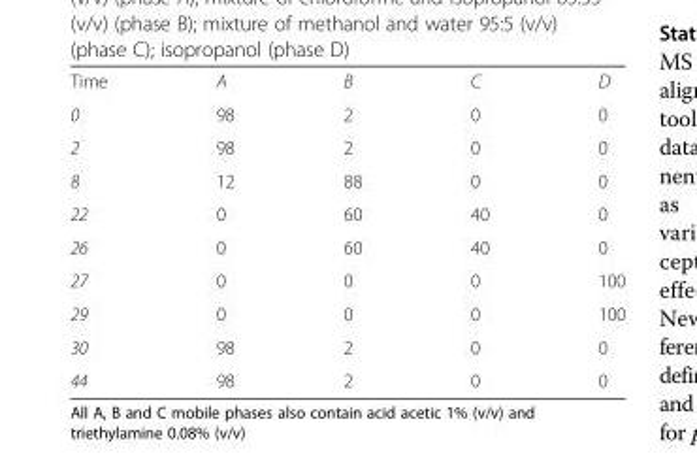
<table><tbody><tr><td>Time</td><td>A</td><td>B</td><td>C</td><td>D</td></tr><tr><td>0</td><td>98</td><td>2</td><td>0</td><td>0</td></tr><tr><td>2</td><td>98</td><td>2</td><td>0</td><td>0</td></tr><tr><td>8</td><td>12</td><td>88</td><td>0</td><td>0</td></tr><tr><td>22</td><td>0</td><td>60</td><td>40</td><td>0</td></tr><tr><td>26</td><td>0</td><td>60</td><td>40</td><td>0</td></tr><tr><td>27</td><td>0</td><td>0</td><td>0</td><td>100</td></tr><tr><td>29</td><td>0</td><td>0</td><td>0</td><td>100</td></tr><tr><td>30</td><td>98</td><td>2</td><td>0</td><td>0</td></tr><tr><td>44</td><td>98</td><td>2</td><td>0</td><td>0</td></tr></tbody></table>